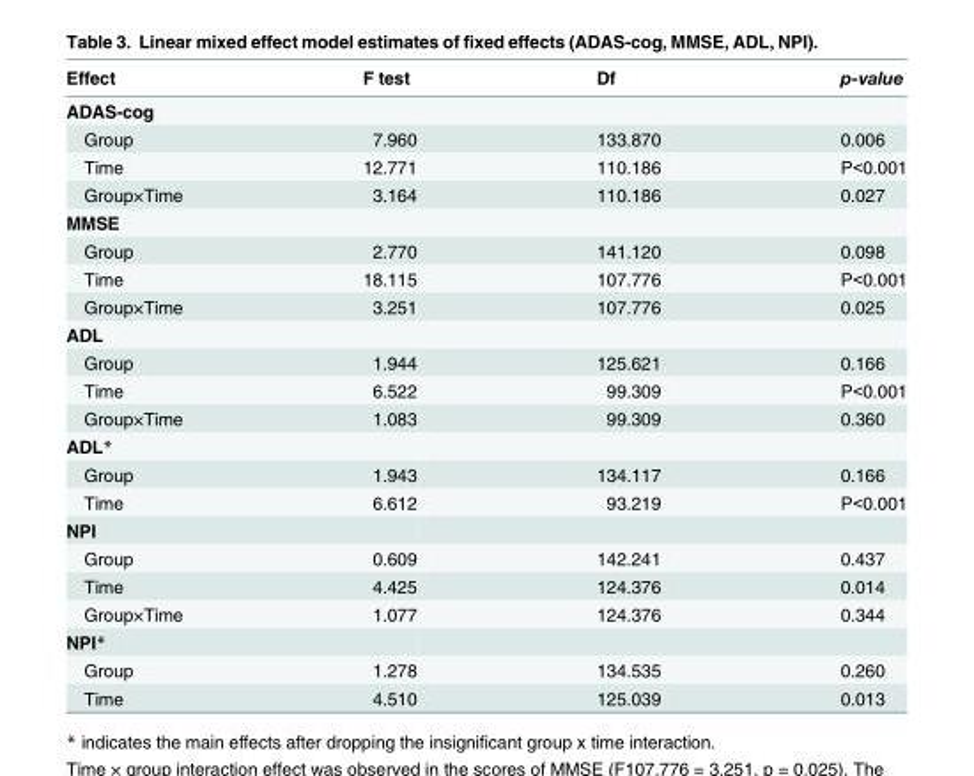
<table><thead><tr><td>Effect</td><td>F test</td><td>Df</td><td>p-value</td></tr></thead><tbody><tr><td colspan="4">ADAS-cog</td></tr><tr><td>Group</td><td>7.960</td><td>133.870</td><td>0.006</td></tr><tr><td>Time</td><td>12.771</td><td>110.186</td><td>P&lt;0.001</td></tr><tr><td>Group×Time</td><td>3.164</td><td>110.186</td><td>0.027</td></tr><tr><td colspan="4">MMSE</td></tr><tr><td>Group</td><td>2.770</td><td>141.120</td><td>0.098</td></tr><tr><td>Time</td><td>18.115</td><td>107.776</td><td>P&lt;0.001</td></tr><tr><td>Group×Time</td><td>3.251</td><td>107.776</td><td>0.025</td></tr><tr><td colspan="4">ADL</td></tr><tr><td>Group</td><td>1.944</td><td>125.621</td><td>0.166</td></tr><tr><td>Time</td><td>6.522</td><td>99.309</td><td>P&lt;0.001</td></tr><tr><td>Group×Time</td><td>1.083</td><td>99.309</td><td>0.360</td></tr><tr><td colspan="4">ADL*</td></tr><tr><td>Group</td><td>1.943</td><td>134.117</td><td>0.166</td></tr><tr><td>Time</td><td>6.612</td><td>93.219</td><td>P&lt;0.001</td></tr><tr><td colspan="4">NPI</td></tr><tr><td>Group</td><td>0.609</td><td>142.241</td><td>0.437</td></tr><tr><td>Time</td><td>4.425</td><td>124.376</td><td>0.014</td></tr><tr><td>Group×Time</td><td>1.077</td><td>124.376</td><td>0.344</td></tr><tr><td colspan="4">NPI*</td></tr><tr><td>Group</td><td>1.278</td><td>134.535</td><td>0.260</td></tr><tr><td>Time</td><td>4.510</td><td>125.039</td><td>0.013</td></tr></tbody></table>